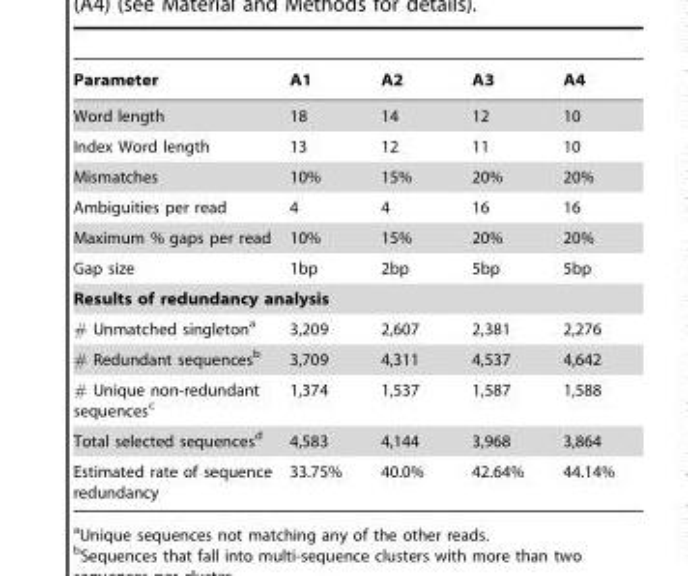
<table><thead><tr><td>Parameter</td><td>A1</td><td>A2</td><td>A3</td><td>A4</td></tr></thead><tbody><tr><td>Word length</td><td>18</td><td>14</td><td>12</td><td>10</td></tr><tr><td>Index Word length</td><td>13</td><td>12</td><td>11</td><td>10</td></tr><tr><td>Mismatches</td><td>10%</td><td>15%</td><td>20%</td><td>20%</td></tr><tr><td>Ambiguities per read</td><td>4</td><td>4</td><td>16</td><td>16</td></tr><tr><td>Maximum % gaps per read</td><td>10%</td><td>15%</td><td>20%</td><td>20%</td></tr><tr><td>Gap size</td><td>1bp</td><td>2bp</td><td>5bp</td><td>5bp</td></tr><tr><td colspan="5">Results of redundancy analysis</td></tr><tr><td># Unmatched singleton<sup>a</sup></td><td>3,209</td><td>2,607</td><td>2,381</td><td>2,276</td></tr><tr><td># Redundant sequences<sup>b</sup></td><td>3,709</td><td>4,311</td><td>4,537</td><td>4,642</td></tr><tr><td># Unique non-redundant sequences<sup>c</sup></td><td>1,374</td><td>1,537</td><td>1,587</td><td>1,588</td></tr><tr><td>Total selected sequences<sup>d</sup></td><td>4,583</td><td>4,144</td><td>3,968</td><td>3,864</td></tr><tr><td>Estimated rate of sequence redundancy</td><td>33.75%</td><td>40.0%</td><td>42.64%</td><td>44.14%</td></tr></tbody></table>